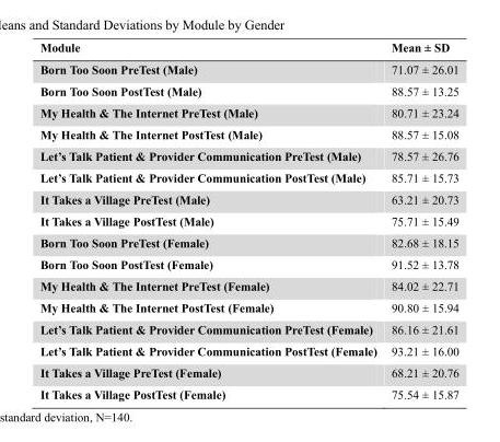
<table><thead><tr><td>Module</td><td>Mean ± SD</td></tr></thead><tbody><tr><td>Born Too Soon PreTest (Male)</td><td>71.07 ± 26.01</td></tr><tr><td>Born Too Soon PostTest (Male)</td><td>88.57 ± 13.25</td></tr><tr><td>My Health &amp; The Internet PreTest (Male)</td><td>80.71 ± 23.24</td></tr><tr><td>My Health &amp; The Internet PostTest (Male)</td><td>88.57 ± 15.08</td></tr><tr><td>Let’s Talk Patient &amp; Provider Communication PreTest (Male)</td><td>78.57 ± 26.76</td></tr><tr><td>Let’s Talk Patient &amp; Provider Communication PostTest (Male)</td><td>85.71 ± 15.73</td></tr><tr><td>It Takes a Village PreTest (Male)</td><td>63.21 ± 20.73</td></tr><tr><td>It Takes a Village PostTest (Male)</td><td>75.71 ± 15.49</td></tr><tr><td>Born Too Soon PreTest (Female)</td><td>82.68 ± 18.15</td></tr><tr><td>Born Too Soon PostTest (Female)</td><td>91.52 ± 13.78</td></tr><tr><td>My Health &amp; The Internet PreTest (Female)</td><td>84.02 ± 22.71</td></tr><tr><td>My Health &amp; The Internet PostTest (Female)</td><td>90.80 ± 15.94</td></tr><tr><td>Let’s Talk Patient &amp; Provider Communication PreTest (Female)</td><td>86.16 ± 21.61</td></tr><tr><td>Let’s Talk Patient &amp; Provider Communication PostTest (Female)</td><td>93.21 ± 16.00</td></tr><tr><td>It Takes a Village PreTest (Female)</td><td>68.21 ± 20.76</td></tr><tr><td>It Takes a Village PostTest (Female)</td><td>75.54 ± 15.87</td></tr></tbody></table>